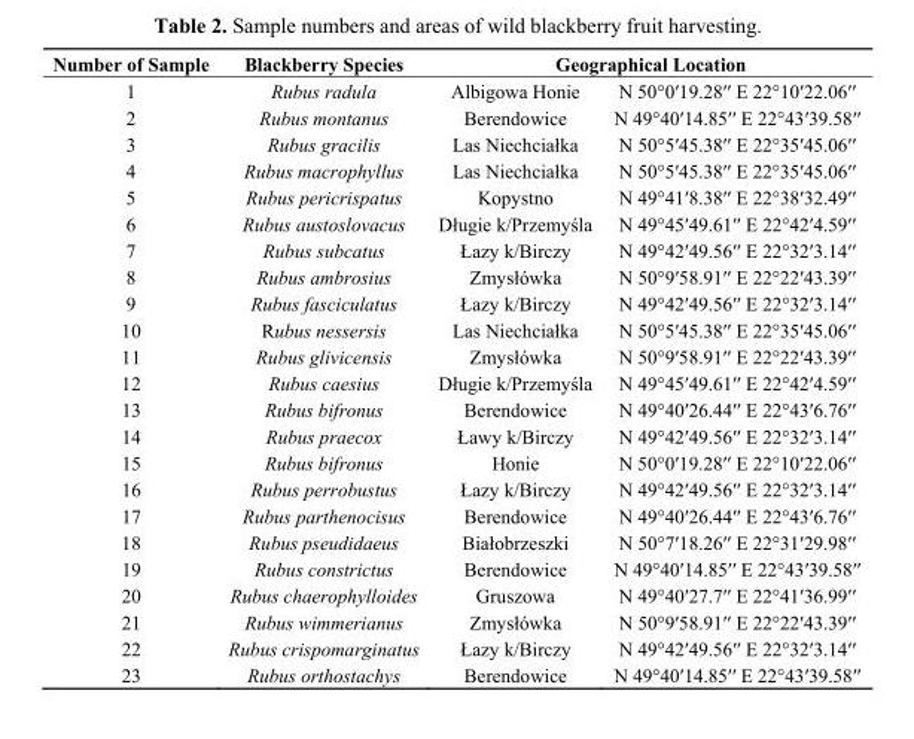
<table><thead><tr><td rowspan="2">Number of Sample 1</td><td rowspan="2">Blackberry Species Rubus radula</td><td colspan="2">Geographical Location</td></tr><tr><td>Albigowa Honie</td><td>N 50°0ʹ19.28ʹʹ E 22°10ʹ22.06ʹʹ</td></tr></thead><tbody><tr><td>2</td><td>Rubus montanus</td><td>Berendowice</td><td>N 49°40ʹ14.85ʹʹ E 22°43ʹ39.58ʹʹ</td></tr><tr><td>3</td><td>Rubus gracilis</td><td>Las Niechciałka</td><td>N 50°5ʹ45.38ʹʹ E 22°35ʹ45.06ʹʹ</td></tr><tr><td>4</td><td>Rubus macrophyllus</td><td>Las Niechciałka</td><td>N 50°5ʹ45.38ʹʹ E 22°35ʹ45.06ʹʹ</td></tr><tr><td>5</td><td>Rubus pericrispatus</td><td>Kopystno</td><td>N 49°41ʹ8.38ʹʹ E 22°38ʹ32.49ʹʹ</td></tr><tr><td>6</td><td>Rubus austoslovacus</td><td>Długie k/Przemyśla</td><td>N 49°45ʹ49.61ʹʹ E 22°42ʹ4.59ʹʹ</td></tr><tr><td>7</td><td>Rubus subcatus</td><td>Łazy k/Birczy</td><td>N 49°42ʹ49.56ʹʹ E 22°32ʹ3.14ʹʹ</td></tr><tr><td>8</td><td>Rubus ambrosius</td><td>Zmysłówka</td><td>N 50°9ʹ58.91ʹʹ E 22°22ʹ43.39ʹʹ</td></tr><tr><td>9</td><td>Rubus fasciculatus</td><td>Łazy k/Birczy</td><td>N 49°42ʹ49.56ʹʹ E 22°32ʹ3.14ʹʹ</td></tr><tr><td>10</td><td>Rubus nessersis</td><td>Las Niechciałka</td><td>N 50°5ʹ45.38ʹʹ E 22°35ʹ45.06ʹʹ</td></tr><tr><td>11</td><td>Rubus glivicensis</td><td>Zmysłówka</td><td>N 50°9ʹ58.91ʹʹ E 22°22ʹ43.39ʹʹ</td></tr><tr><td>12</td><td>Rubus caesius</td><td>Długie k/Przemyśla</td><td>N 49°45ʹ49.61ʹʹ E 22°42ʹ4.59ʹʹ</td></tr><tr><td>13</td><td>Rubus bifronus</td><td>Berendowice</td><td>N 49°40ʹ26.44ʹʹ E 22°43ʹ6.76ʹʹ</td></tr><tr><td>14</td><td>Rubus praecox</td><td>Ławy k/Birczy</td><td>N 49°42ʹ49.56ʹʹ E 22°32ʹ3.14ʹʹ</td></tr><tr><td>15</td><td>Rubus bifronus</td><td>Honie</td><td>N 50°0ʹ19.28ʹʹ E 22°10ʹ22.06ʹʹ</td></tr><tr><td>16</td><td>Rubus perrobustus</td><td>Łazy k/Birczy</td><td>N 49°42ʹ49.56ʹʹ E 22°32ʹ3.14ʹʹ</td></tr><tr><td>17</td><td>Rubus parthenocisus</td><td>Berendowice</td><td>N 49°40ʹ26.44ʹʹ E 22°43ʹ6.76ʹʹ</td></tr><tr><td>18</td><td>Rubus pseudidaeus</td><td>Białobrzeszki</td><td>N 50°7ʹ18.26ʹʹ E 22°31ʹ29.98ʹʹ</td></tr><tr><td>19</td><td>Rubus constrictus</td><td>Berendowice</td><td>N 49°40ʹ14.85ʹʹ E 22°43ʹ39.58ʹʹ</td></tr><tr><td>20</td><td>Rubus chaerophylloides</td><td>Gruszowa</td><td>N 49°40ʹ27.7ʹʹ E 22°41ʹ36.99ʹʹ</td></tr><tr><td>21</td><td>Rubus wimmerianus</td><td>Zmysłówka</td><td>N 50°9ʹ58.91ʹʹ E 22°22ʹ43.39ʹʹ</td></tr><tr><td>22</td><td>Rubus crispomarginatus</td><td>Łazy k/Birczy</td><td>N 49°42ʹ49.56ʹʹ E 22°32ʹ3.14ʹʹ</td></tr><tr><td>23</td><td>Rubus orthostachys</td><td>Berendowice</td><td>N 49°40ʹ14.85ʹʹ E 22°43ʹ39.58ʹʹ</td></tr></tbody></table>